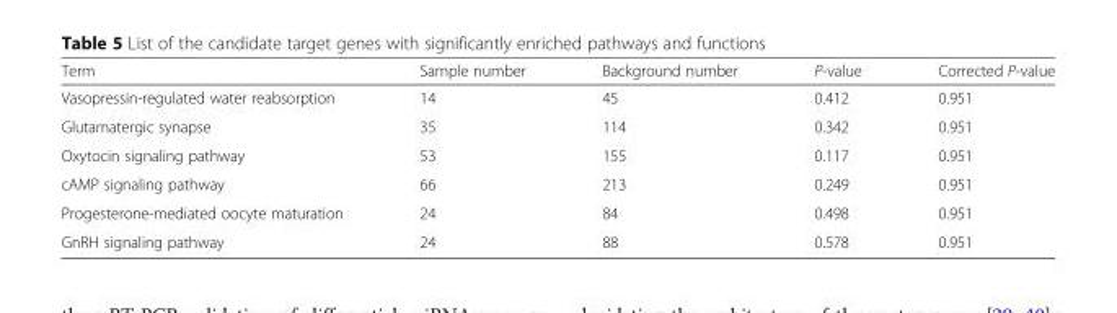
<table><thead><tr><td>Term</td><td>Sample number</td><td>Background number</td><td>P-value</td><td>Corrected P-value</td></tr></thead><tbody><tr><td>Vasopressin-regulated water reabsorption</td><td>14</td><td>45</td><td>0.412</td><td>0.951</td></tr><tr><td>Glutamatergic synapse</td><td>35</td><td>114</td><td>0.342</td><td>0.951</td></tr><tr><td>Oxytocin signaling pathway</td><td>53</td><td>155</td><td>0.117</td><td>0.951</td></tr><tr><td>cAMP signaling pathway</td><td>66</td><td>213</td><td>0.249</td><td>0.951</td></tr><tr><td>Progesterone-mediated oocyte maturation</td><td>24</td><td>84</td><td>0.498</td><td>0.951</td></tr><tr><td>GnRH signaling pathway</td><td>24</td><td>88</td><td>0.578</td><td>0.951</td></tr></tbody></table>